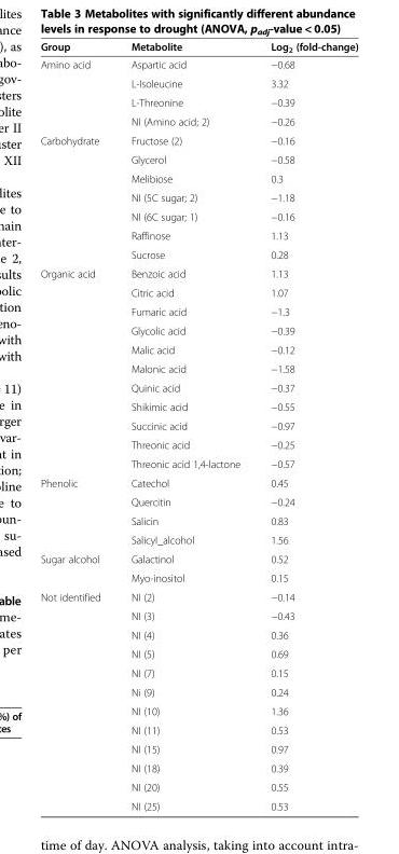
<table><thead><tr><td>Group</td><td>Metabolite</td><td>Log<sub>2</sub> (fold-change)</td></tr></thead><tbody><tr><td rowspan="4">Amino acid</td><td>Aspartic acid</td><td>−0.68</td></tr><tr><td>L-Isoleucine</td><td>3.32</td></tr><tr><td>L-Threonine</td><td>−0.39</td></tr><tr><td>NI (Amino acid; 2)</td><td>−0.26</td></tr><tr><td rowspan="7">Carbohydrate</td><td>Fructose (2)</td><td>−0.16</td></tr><tr><td>Glycerol</td><td>−0.58</td></tr><tr><td>Melibiose</td><td>0.3</td></tr><tr><td>NI (5C sugar; 2)</td><td>−1.18</td></tr><tr><td>NI (6C sugar; 1)</td><td>−0.16</td></tr><tr><td>Raffinose</td><td>1.13</td></tr><tr><td>Sucrose</td><td>0.28</td></tr><tr><td rowspan="11">Organic acid</td><td>Benzoic acid</td><td>1.13</td></tr><tr><td>Citric acid</td><td>1.07</td></tr><tr><td>Fumaric acid</td><td>−1.3</td></tr><tr><td>Glycolic acid</td><td>−0.39</td></tr><tr><td>Malic acid</td><td>−0.12</td></tr><tr><td>Malonic acid</td><td>−1.58</td></tr><tr><td>Quinic acid</td><td>−0.37</td></tr><tr><td>Shikimic acid</td><td>−0.55</td></tr><tr><td>Succinic acid</td><td>−0.97</td></tr><tr><td>Threonic acid</td><td>−0.25</td></tr><tr><td>Threonic acid 1,4-lactone</td><td>−0.57</td></tr><tr><td rowspan="4">Phenolic</td><td>Catechol</td><td>0.45</td></tr><tr><td>Quercitin</td><td>−0.24</td></tr><tr><td>Salicin</td><td>0.83</td></tr><tr><td>Salicyl_alcohol</td><td>1.56</td></tr><tr><td rowspan="2">Sugar alcohol</td><td>Galactinol</td><td>0.52</td></tr><tr><td>Myo-inositol</td><td>0.15</td></tr><tr><td rowspan="12">Not identified</td><td>NI (2)</td><td>−0.14</td></tr><tr><td>NI (3)</td><td>−0.43</td></tr><tr><td>NI (4)</td><td>0.36</td></tr><tr><td>NI (5)</td><td>0.69</td></tr><tr><td>NI (7)</td><td>0.15</td></tr><tr><td>Ni (9)</td><td>0.24</td></tr><tr><td>NI (10)</td><td>1.36</td></tr><tr><td>NI (11)</td><td>0.53</td></tr><tr><td>NI (15)</td><td>0.97</td></tr><tr><td>NI (18)</td><td>0.39</td></tr><tr><td>NI (20)</td><td>0.55</td></tr><tr><td>NI (25)</td><td>0.53</td></tr></tbody></table>